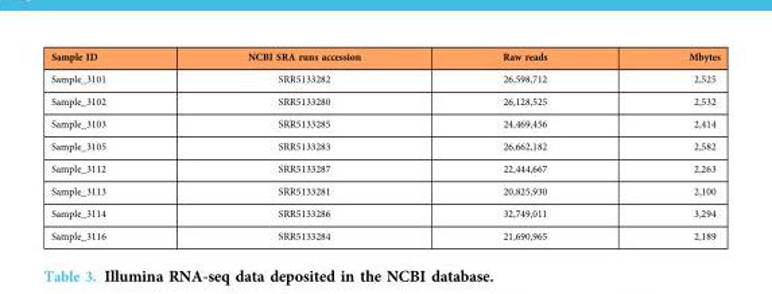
<table><thead><tr><td>Sample ID</td><td>NCBI SRA runs accession</td><td>Raw reads</td><td>Mbytes</td></tr></thead><tbody><tr><td>Sample_3101</td><td>SRR5133282</td><td>26,598,712</td><td>2,525</td></tr><tr><td>Sample_3102</td><td>SRR5133280</td><td>26,128,525</td><td>2,532</td></tr><tr><td>Sample_3103</td><td>SRR5133285</td><td>24,469,456</td><td>2,414</td></tr><tr><td>Sample_3105</td><td>SRR5133283</td><td>26,662,182</td><td>2,582</td></tr><tr><td>Sample_3112</td><td>SRR5133287</td><td>22,444,667</td><td>2,263</td></tr><tr><td>Sample_3113</td><td>SRR5133281</td><td>20,825,930</td><td>2,100</td></tr><tr><td>Sample_3114</td><td>SRR5133286</td><td>32,749,011</td><td>3,294</td></tr><tr><td>Sample_3116</td><td>SRR5133284</td><td>21,690,965</td><td>2,189</td></tr></tbody></table>